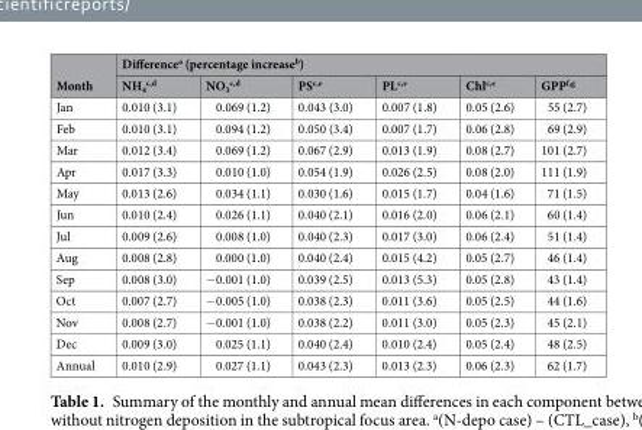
<table><thead><tr><td rowspan="2">Month</td><td colspan="6">Difference<sup>a</sup> (percentage increase<sup>b</sup>)</td></tr><tr><td>NH<sub>4</sub> <sup>c,d</sup></td><td>NO<sub>3</sub> <sup>c,d</sup></td><td>PS<sup>c,e</sup></td><td>PL<sup>c,e</sup></td><td>Chl<sup>c,e</sup></td><td>GPP<sup>f,g</sup></td></tr></thead><tbody><tr><td>Jan</td><td>0.010 (3.1)</td><td>0.069 (1.2)</td><td>0.043 (3.0)</td><td>0.007 (1.8)</td><td>0.05 (2.6)</td><td>55 (2.7)</td></tr><tr><td>Feb</td><td>0.010 (3.1)</td><td>0.094 (1.2)</td><td>0.050 (3.4)</td><td>0.007 (1.7)</td><td>0.06 (2.8)</td><td>69 (2.9)</td></tr><tr><td>Mar</td><td>0.012 (3.4)</td><td>0.069 (1.2)</td><td>0.067 (2.9)</td><td>0.013 (1.9)</td><td>0.08 (2.7)</td><td>101 (2.7)</td></tr><tr><td>Apr</td><td>0.017 (3.3)</td><td>0.010 (1.0)</td><td>0.054 (1.9)</td><td>0.026 (2.5)</td><td>0.08 (2.0)</td><td>111 (1.9)</td></tr><tr><td>May</td><td>0.013 (2.6)</td><td>0.034 (1.1)</td><td>0.030 (1.6)</td><td>0.015 (1.7)</td><td>0.04 (1.6)</td><td>71 (1.5)</td></tr><tr><td>Jun</td><td>0.010 (2.4)</td><td>0.026 (1.1)</td><td>0.040 (2.1)</td><td>0.016 (2.0)</td><td>0.06 (2.1)</td><td>60 (1.4)</td></tr><tr><td>Jul</td><td>0.009 (2.6)</td><td>0.008 (1.0)</td><td>0.040 (2.3)</td><td>0.017 (3.0)</td><td>0.06 (2.4)</td><td>51 (1.4)</td></tr><tr><td>Aug</td><td>0.008 (2.8)</td><td>0.000 (1.0)</td><td>0.040 (2.4)</td><td>0.015 (4.2)</td><td>0.05 (2.7)</td><td>46 (1.4)</td></tr><tr><td>Sep</td><td>0.008 (3.0)</td><td>−0.001 (1.0)</td><td>0.039 (2.5)</td><td>0.013 (5.3)</td><td>0.05 (2.8)</td><td>43 (1.4)</td></tr><tr><td>Oct</td><td>0.007 (2.7)</td><td>−0.005 (1.0)</td><td>0.038 (2.3)</td><td>0.011 (3.6)</td><td>0.05 (2.5)</td><td>44 (1.6)</td></tr><tr><td>Nov</td><td>0.008 (2.7)</td><td>−0.001 (1.0)</td><td>0.038 (2.2)</td><td>0.011 (3.0)</td><td>0.05 (2.3)</td><td>45 (2.1)</td></tr><tr><td>Dec</td><td>0.009 (3.0)</td><td>0.025 (1.1)</td><td>0.040 (2.4)</td><td>0.010 (2.4)</td><td>0.05 (2.4)</td><td>48 (2.5)</td></tr><tr><td>Annual</td><td>0.010 (2.9)</td><td>0.027 (1.1)</td><td>0.043 (2.3)</td><td>0.013 (2.3)</td><td>0.06 (2.3)</td><td>62 (1.7)</td></tr></tbody></table>